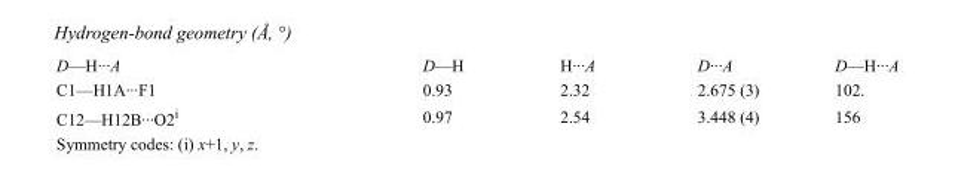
<table><tbody><tr><td>D—H···A</td><td>D—H</td><td>H···A</td><td>D···A</td><td>D—H···A</td></tr><tr><td>C1—H1A···F1</td><td>0.93</td><td>2.32</td><td>2.675 (3)</td><td>102.</td></tr><tr><td>C12—H12B···O2<sup>i</sup></td><td>0.97</td><td>2.54</td><td>3.448 (4)</td><td>156</td></tr></tbody></table>